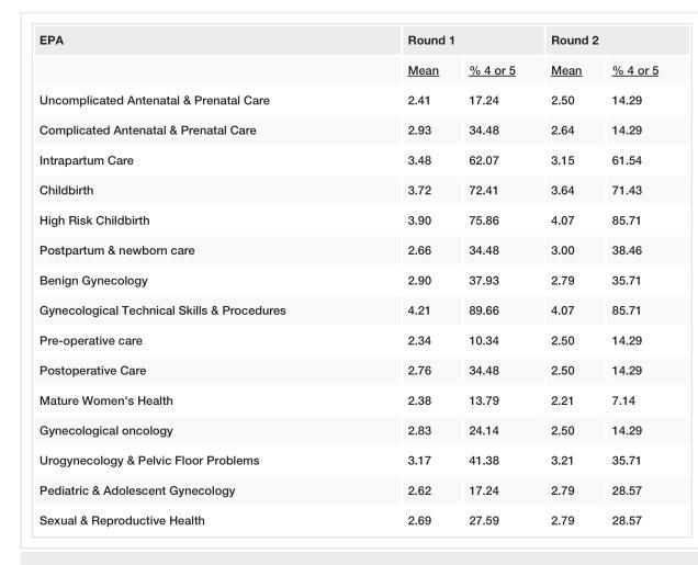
<table><tbody><tr><td rowspan="2">EPA</td><td colspan="2">Round 1</td><td colspan="2">Round 2</td></tr><tr><td>Mean</td><td>% 4 or 5</td><td>Mean</td><td>% 4 or 5</td></tr><tr><td>Uncomplicated Antenatal &amp; Prenatal Care</td><td>2.41</td><td>17.24</td><td>2.50</td><td>14.29</td></tr><tr><td>Complicated Antenatal &amp; Prenatal Care</td><td>2.93</td><td>34.48</td><td>2.64</td><td>14.29</td></tr><tr><td>Intrapartum Care</td><td>3.48</td><td>62.07</td><td>3.15</td><td>61.54</td></tr><tr><td>Childbirth</td><td>3.72</td><td>72.41</td><td>3.64</td><td>71.43</td></tr><tr><td>High Risk Childbirth</td><td>3.90</td><td>75.86</td><td>4.07</td><td>85.71</td></tr><tr><td>Postpartum &amp; newborn care</td><td>2.66</td><td>34.48</td><td>3.00</td><td>38.46</td></tr><tr><td>Benign Gynecology</td><td>2.90</td><td>37.93</td><td>2.79</td><td>35.71</td></tr><tr><td>Gynecological Technical Skills &amp; Procedures</td><td>4.21</td><td>89.66</td><td>4.07</td><td>85.71</td></tr><tr><td>Pre-operative care</td><td>2.34</td><td>10.34</td><td>2.50</td><td>14.29</td></tr><tr><td>Postoperative Care</td><td>2.76</td><td>34.48</td><td>2.50</td><td>14.29</td></tr><tr><td>Mature Women&#x27;s Health</td><td>2.38</td><td>13.79</td><td>2.21</td><td>7.14</td></tr><tr><td>Gynecological oncology</td><td>2.83</td><td>24.14</td><td>2.50</td><td>14.29</td></tr><tr><td>Urogynecology &amp; Pelvic Floor Problems</td><td>3.17</td><td>41.38</td><td>3.21</td><td>35.71</td></tr><tr><td>Pediatric &amp; Adolescent Gynecology</td><td>2.62</td><td>17.24</td><td>2.79</td><td>28.57</td></tr><tr><td>Sexual &amp; Reproductive Health</td><td>2.69</td><td>27.59</td><td>2.79</td><td>28.57</td></tr></tbody></table>